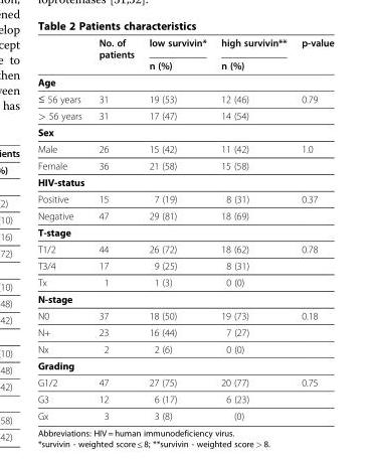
<table><thead><tr><td rowspan="2"></td><td rowspan="2">No. of patients</td><td rowspan="2">low survivin* n (%)</td><td rowspan="2">high survivin** n (%)</td><td rowspan="2">p-value</td></tr><tr></tr></thead><tbody><tr><td colspan="5">Age</td></tr><tr><td>≤ 56 years</td><td>31</td><td>19 (53)</td><td>12 (46)</td><td>0.79</td></tr><tr><td>&gt; 56 years</td><td>31</td><td>17 (47)</td><td>14 (54)</td><td></td></tr><tr><td colspan="5">Sex</td></tr><tr><td>Male</td><td>26</td><td>15 (42)</td><td>11 (42)</td><td>1.0</td></tr><tr><td>Female</td><td>36</td><td>21 (58)</td><td>15 (58)</td><td></td></tr><tr><td colspan="5">HIV-status</td></tr><tr><td>Positive</td><td>15</td><td>7 (19)</td><td>8 (31)</td><td>0.37</td></tr><tr><td>Negative</td><td>47</td><td>29 (81)</td><td>18 (69)</td><td></td></tr><tr><td colspan="5">T-stage</td></tr><tr><td>T1/2</td><td>44</td><td>26 (72)</td><td>18 (62)</td><td>0.78</td></tr><tr><td>T3/4</td><td>17</td><td>9 (25)</td><td>8 (31)</td><td></td></tr><tr><td>Tx</td><td>1</td><td>1 (3)</td><td>0 (0)</td><td></td></tr><tr><td colspan="5">N-stage</td></tr><tr><td>N0</td><td>37</td><td>18 (50)</td><td>19 (73)</td><td>0.18</td></tr><tr><td>N+</td><td>23</td><td>16 (44)</td><td>7 (27)</td><td></td></tr><tr><td>Nx</td><td>2</td><td>2 (6)</td><td>0 (0)</td><td></td></tr><tr><td colspan="5">Grading</td></tr><tr><td>G1/2</td><td>47</td><td>27 (75)</td><td>20 (77)</td><td>0.75</td></tr><tr><td>G3</td><td>12</td><td>6 (17)</td><td>6 (23)</td><td></td></tr><tr><td>Gx</td><td>3</td><td>3 (8)</td><td>(0)</td><td></td></tr></tbody></table>